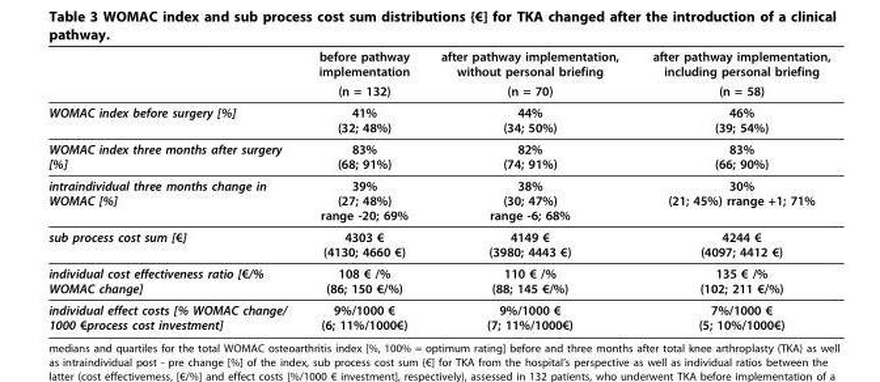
<table><thead><tr><td rowspan="2"></td><td rowspan="2">before pathway implementation (n = 132)</td><td rowspan="2">after pathway implementation, without personal briefing (n = 70)</td><td rowspan="2">after pathway implementation, including personal briefing (n = 58)</td></tr><tr></tr></thead><tbody><tr><td>WOMAC index before surgery [%]</td><td>41% (32; 48%)</td><td>44% (34; 50%)</td><td>46% (39; 54%)</td></tr><tr><td>WOMAC index three months after surgery [%]</td><td>83% (68; 91%)</td><td>82% (74; 91%)</td><td>83% (66; 90%)</td></tr><tr><td>intraindividual three months change in WOMAC [%]</td><td>39% (27; 48%) range -20; 69%</td><td>38% (30; 47%) range -6; 68%</td><td>30% (21; 45%) rrange +1; 71%</td></tr><tr><td>sub process cost sum [€]</td><td>4303 € (4130; 4660 €)</td><td>4149 € (3980; 4443 €)</td><td>4244 € (4097; 4412 €)</td></tr><tr><td>individual cost effectiveness ratio [€/% WOMAC change]</td><td>108 € /% (86; 150 €/%)</td><td>110 € /% (88; 145 €/%)</td><td>135 € /% (102; 211 €/%)</td></tr><tr><td>individual effect costs [% WOMAC change/ 1000 €process cost investment]</td><td>9%/1000 € (6; 11%/1000€)</td><td>9%/1000 € (7; 11%/1000€)</td><td>7%/1000 € (5; 10%/1000€)</td></tr></tbody></table>